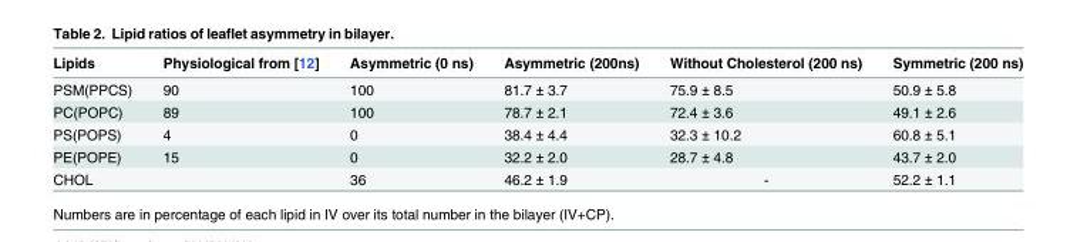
<table><thead><tr><td>Lipids</td><td>Physiological from [12]</td><td>Asymmetric (0 ns)</td><td>Asymmetric (200ns)</td><td>Without Cholesterol (200 ns)</td><td>Symmetric (200 ns)</td></tr></thead><tbody><tr><td>PSM(PPCS)</td><td>90</td><td>100</td><td>81.7 ± 3.7</td><td>75.9 ± 8.5</td><td>50.9 ± 5.8</td></tr><tr><td>PC(POPC)</td><td>89</td><td>100</td><td>78.7 ± 2.1</td><td>72.4 ± 3.6</td><td>49.1 ± 2.6</td></tr><tr><td>PS(POPS)</td><td>4</td><td>0</td><td>38.4 ± 4.4</td><td>32.3 ± 10.2</td><td>60.8 ± 5.1</td></tr><tr><td>PE(POPE)</td><td>15</td><td>0</td><td>32.2 ± 2.0</td><td>28.7 ± 4.8</td><td>43.7 ± 2.0</td></tr><tr><td>CHOL</td><td></td><td>36</td><td>46.2 ± 1.9</td><td>-</td><td>52.2 ± 1.1</td></tr></tbody></table>